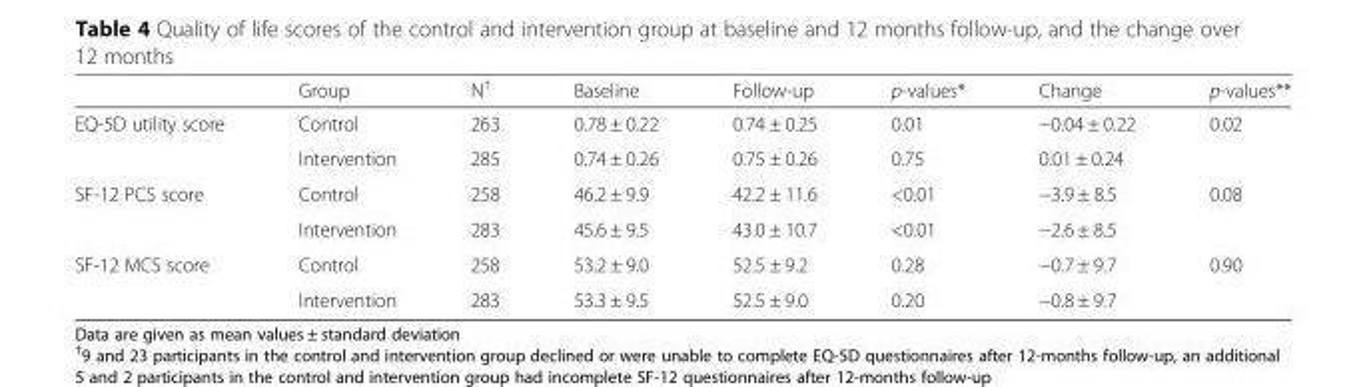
<table><thead><tr><td></td><td>Group</td><td>N<sup>†</sup></td><td>Baseline</td><td>Follow-up</td><td>p-values*</td><td>Change</td><td>p-values**</td></tr></thead><tbody><tr><td rowspan="2">EQ-5D utility score</td><td>Control</td><td>263</td><td>0.78 ± 0.22</td><td>0.74 ± 0.25</td><td>0.01</td><td>−0.04 ± 0.22</td><td>0.02</td></tr><tr><td>Intervention</td><td>285</td><td>0.74 ± 0.26</td><td>0.75 ± 0.26</td><td>0.75</td><td>0.01 ± 0.24</td><td></td></tr><tr><td rowspan="2">SF-12 PCS score</td><td>Control</td><td>258</td><td>46.2 ± 9.9</td><td>42.2 ± 11.6</td><td>&lt;0.01</td><td>−3.9 ± 8.5</td><td>0.08</td></tr><tr><td>Intervention</td><td>283</td><td>45.6 ± 9.5</td><td>43.0 ± 10.7</td><td>&lt;0.01</td><td>−2.6 ± 8.5</td><td></td></tr><tr><td rowspan="2">SF-12 MCS score</td><td>Control</td><td>258</td><td>53.2 ± 9.0</td><td>52.5 ± 9.2</td><td>0.28</td><td>−0.7 ± 9.7</td><td>0.90</td></tr><tr><td>Intervention</td><td>283</td><td>53.3 ± 9.5</td><td>52.5 ± 9.0</td><td>0.20</td><td>−0.8 ± 9.7</td><td></td></tr></tbody></table>